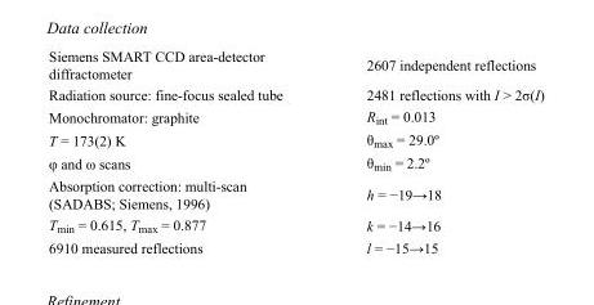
<table><tbody><tr><td>Siemens SMART CCD area-detector diffractometer</td><td>2607 independent reflections</td></tr><tr><td>Radiation source: fine-focus sealed tube</td><td>2481 reflections with I &gt; 2σ(I)</td></tr><tr><td>Monochromator: graphite</td><td>R<sub>int</sub> = 0.013</td></tr><tr><td>T = 173(2) K</td><td>θ<sub>max</sub> = 29.0º</td></tr><tr><td>φ and ω scans</td><td>θ<sub>min</sub> = 2.2º</td></tr><tr><td>Absorption correction: multi-scan (SADABS; Siemens, 1996)</td><td>h = −19→18</td></tr><tr><td>T<sub>min</sub> = 0.615, T<sub>max</sub> = 0.877</td><td>k = −14→16</td></tr><tr><td>6910 measured reflections</td><td>l = −15→15</td></tr></tbody></table>